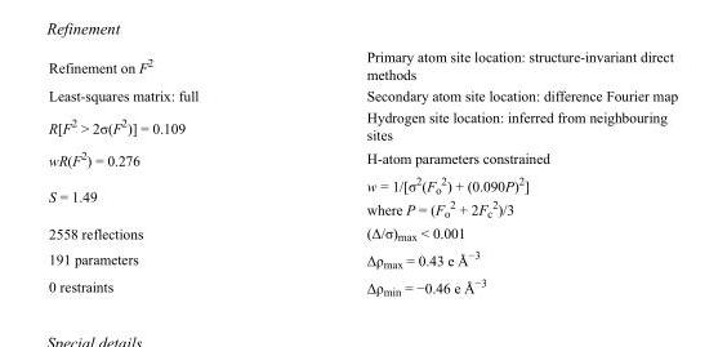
<table><tbody><tr><td>Refinement on F<sup>2</sup></td><td>Primary atom site location: structure-invariant direct methods</td></tr><tr><td>Least-squares matrix: full</td><td>Secondary atom site location: difference Fourier map</td></tr><tr><td>R[F<sup>2</sup> &gt; 2σ(F<sup>2</sup>)] = 0.109</td><td>Hydrogen site location: inferred from neighbouring sites</td></tr><tr><td>wR(F<sup>2</sup>) = 0.276</td><td>H-atom parameters constrained</td></tr><tr><td>S = 1.49</td><td>w = 1/[σ<sup>2</sup>(F<sub>o</sub> <sup>2</sup>) + (0.090P)<sup>2</sup>] where P = (F<sub>o</sub> <sup>2</sup> + 2F<sub>c</sub> <sup>2</sup>)/3</td></tr><tr><td>2558 reflections</td><td>(Δ/σ)<sub>max</sub> &lt; 0.001</td></tr><tr><td>191 parameters</td><td>Δρ<sub>max</sub> = 0.43 e Å<sup>−3</sup></td></tr><tr><td>0 restraints</td><td>Δρ<sub>min</sub> = −0.46 e Å<sup>−3</sup></td></tr></tbody></table>